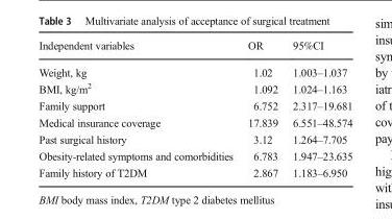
<table><thead><tr><td>Independent variables</td><td>OR</td><td>95%CI</td></tr></thead><tbody><tr><td>Weight, kg</td><td>1.02</td><td>1.003–1.037</td></tr><tr><td>BMI, kg/m<sup>2</sup></td><td>1.092</td><td>1.024–1.163</td></tr><tr><td>Family support</td><td>6.752</td><td>2.317–19.681</td></tr><tr><td>Medical insurance coverage</td><td>17.839</td><td>6.551–48.574</td></tr><tr><td>Past surgical history</td><td>3.12</td><td>1.264–7.705</td></tr><tr><td>Obesity-related symptoms and comorbidities</td><td>6.783</td><td>1.947–23.635</td></tr><tr><td>Family history of T2DM</td><td>2.867</td><td>1.183–6.950</td></tr></tbody></table>